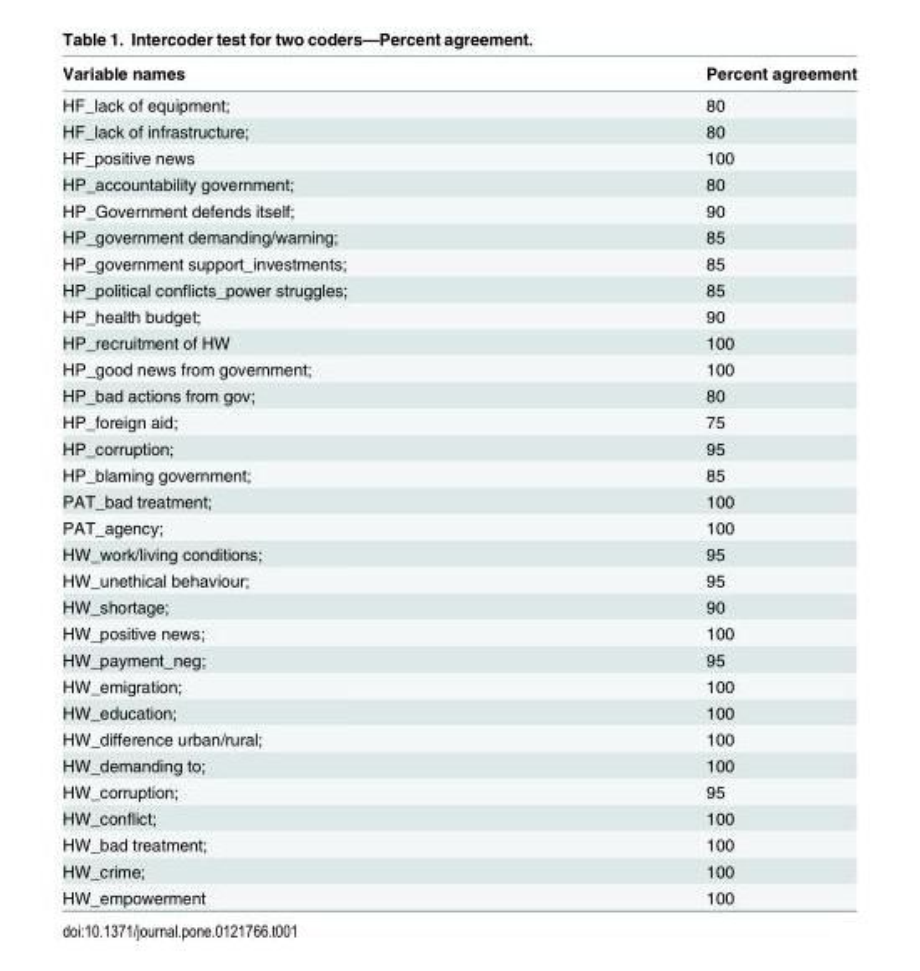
<table><thead><tr><td>Variable names</td><td>Percent agreement</td></tr></thead><tbody><tr><td>HF_lack of equipment;</td><td>80</td></tr><tr><td>HF_lack of infrastructure;</td><td>80</td></tr><tr><td>HF_positive news</td><td>100</td></tr><tr><td>HP_accountability government;</td><td>80</td></tr><tr><td>HP_Government defends itself;</td><td>90</td></tr><tr><td>HP_government demanding/warning;</td><td>85</td></tr><tr><td>HP_government support_investments;</td><td>85</td></tr><tr><td>HP_political conflicts_power struggles;</td><td>85</td></tr><tr><td>HP_health budget;</td><td>90</td></tr><tr><td>HP_recruitment of HW</td><td>100</td></tr><tr><td>HP_good news from government;</td><td>100</td></tr><tr><td>HP_bad actions from gov;</td><td>80</td></tr><tr><td>HP_foreign aid;</td><td>75</td></tr><tr><td>HP_corruption;</td><td>95</td></tr><tr><td>HP_blaming government;</td><td>85</td></tr><tr><td>PAT_bad treatment;</td><td>100</td></tr><tr><td>PAT_agency;</td><td>100</td></tr><tr><td>HW_work/living conditions;</td><td>95</td></tr><tr><td>HW_unethical behaviour;</td><td>95</td></tr><tr><td>HW_shortage;</td><td>90</td></tr><tr><td>HW_positive news;</td><td>100</td></tr><tr><td>HW_payment_neg;</td><td>95</td></tr><tr><td>HW_emigration;</td><td>100</td></tr><tr><td>HW_education;</td><td>100</td></tr><tr><td>HW_difference urban/rural;</td><td>100</td></tr><tr><td>HW_demanding to;</td><td>100</td></tr><tr><td>HW_corruption;</td><td>95</td></tr><tr><td>HW_conflict;</td><td>100</td></tr><tr><td>HW_bad treatment;</td><td>100</td></tr><tr><td>HW_crime;</td><td>100</td></tr><tr><td>HW_empowerment</td><td>100</td></tr></tbody></table>